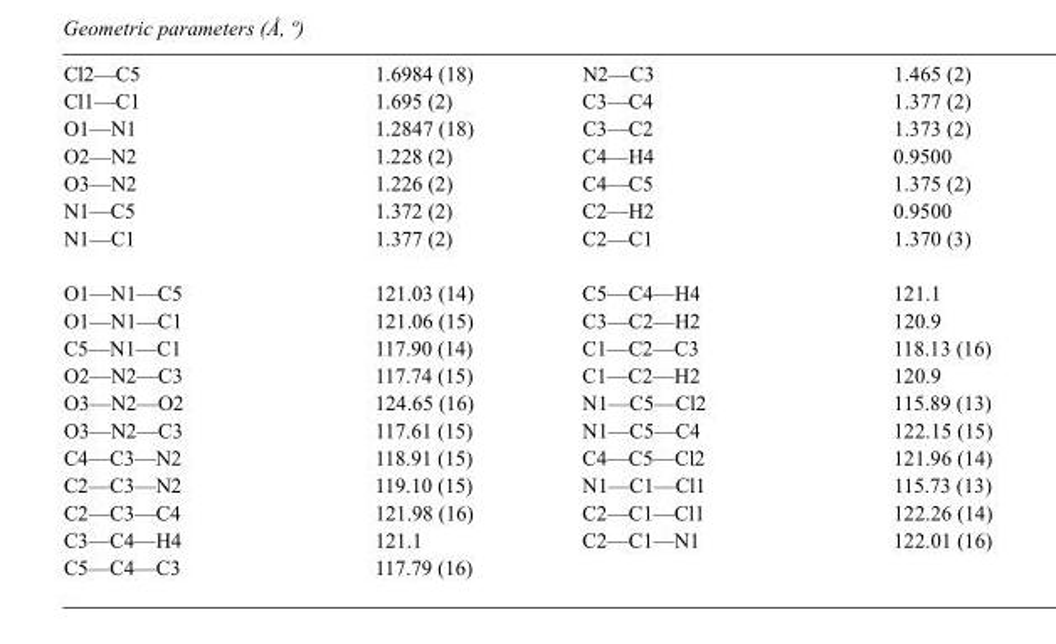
<table><tbody><tr><td>Cl2—C5</td><td>1.6984 (18)</td><td>N2—C3</td><td>1.465 (2)</td></tr><tr><td>Cl1—C1</td><td>1.695 (2)</td><td>C3—C4</td><td>1.377 (2)</td></tr><tr><td>O1—N1</td><td>1.2847 (18)</td><td>C3—C2</td><td>1.373 (2)</td></tr><tr><td>O2—N2</td><td>1.228 (2)</td><td>C4—H4</td><td>0.9500</td></tr><tr><td>O3—N2</td><td>1.226 (2)</td><td>C4—C5</td><td>1.375 (2)</td></tr><tr><td>N1—C5</td><td>1.372 (2)</td><td>C2—H2</td><td>0.9500</td></tr><tr><td>N1—C1</td><td>1.377 (2)</td><td>C2—C1</td><td>1.370 (3)</td></tr><tr><td>O1—N1—C5</td><td>121.03 (14)</td><td>C5—C4—H4</td><td>121.1</td></tr><tr><td>O1—N1—C1</td><td>121.06 (15)</td><td>C3—C2—H2</td><td>120.9</td></tr><tr><td>C5—N1—C1</td><td>117.90 (14)</td><td>C1—C2—C3</td><td>118.13 (16)</td></tr><tr><td>O2—N2—C3</td><td>117.74 (15)</td><td>C1—C2—H2</td><td>120.9</td></tr><tr><td>O3—N2—O2</td><td>124.65 (16)</td><td>N1—C5—Cl2</td><td>115.89 (13)</td></tr><tr><td>O3—N2—C3</td><td>117.61 (15)</td><td>N1—C5—C4</td><td>122.15 (15)</td></tr><tr><td>C4—C3—N2</td><td>118.91 (15)</td><td>C4—C5—Cl2</td><td>121.96 (14)</td></tr><tr><td>C2—C3—N2</td><td>119.10 (15)</td><td>N1—C1—Cl1</td><td>115.73 (13)</td></tr><tr><td>C2—C3—C4</td><td>121.98 (16)</td><td>C2—C1—Cl1</td><td>122.26 (14)</td></tr><tr><td>C3—C4—H4</td><td>121.1</td><td>C2—C1—N1</td><td>122.01 (16)</td></tr><tr><td>C5—C4—C3</td><td>117.79 (16)</td><td></td><td></td></tr></tbody></table>